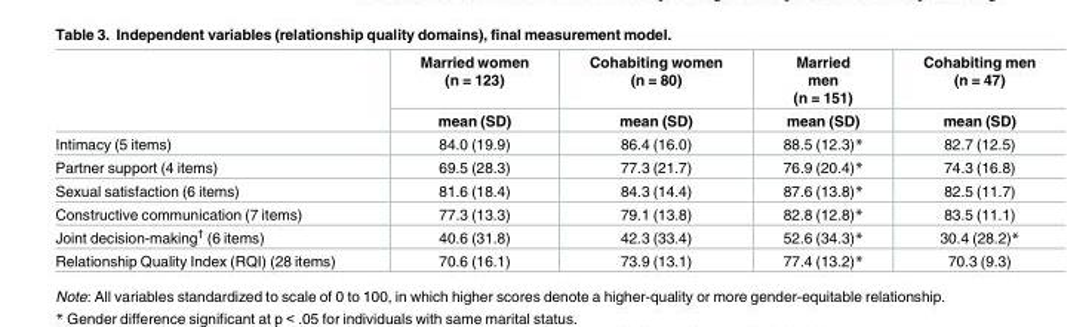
<table><thead><tr><td rowspan="2"></td><td rowspan="2">Married women (n = 123) mean (SD)</td><td rowspan="2">Cohabiting women (n = 80) mean (SD)</td><td rowspan="2">Married men (n = 151) mean (SD)</td><td rowspan="2">Cohabiting men (n = 47) mean (SD)</td></tr><tr></tr></thead><tbody><tr><td>Intimacy (5 items)</td><td>84.0 (19.9)</td><td>86.4 (16.0)</td><td>88.5 (12.3)*</td><td>82.7 (12.5)</td></tr><tr><td>Partner support (4 items)</td><td>69.5 (28.3)</td><td>77.3 (21.7)</td><td>76.9 (20.4)*</td><td>74.3 (16.8)</td></tr><tr><td>Sexual satisfaction (6 items)</td><td>81.6 (18.4)</td><td>84.3 (14.4)</td><td>87.6 (13.8)*</td><td>82.5 (11.7)</td></tr><tr><td>Constructive communication (7 items)</td><td>77.3 (13.3)</td><td>79.1 (13.8)</td><td>82.8 (12.8)*</td><td>83.5 (11.1)</td></tr><tr><td>Joint decision-making<sup>†</sup> (6 items)</td><td>40.6 (31.8)</td><td>42.3 (33.4)</td><td>52.6 (34.3)*</td><td>30.4 (28.2)*</td></tr><tr><td>Relationship Quality Index (RQI) (28 items)</td><td>70.6 (16.1)</td><td>73.9 (13.1)</td><td>77.4 (13.2)*</td><td>70.3 (9.3)</td></tr></tbody></table>